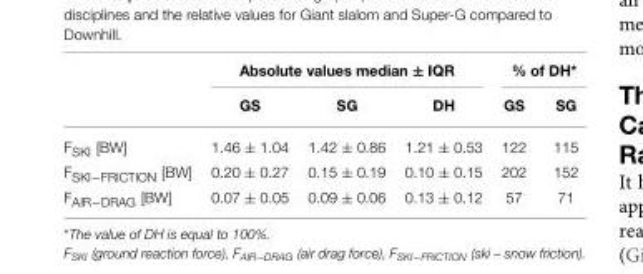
<table><thead><tr><td rowspan="2"></td><td colspan="3">Absolute values median ± IQR</td><td colspan="2">% of DH*</td></tr><tr><td>GS</td><td>SG</td><td>DH</td><td>GS</td><td>SG</td></tr></thead><tbody><tr><td>F<sub>SKI</sub> [BW]</td><td>1.46 ± 1.04</td><td>1.42 ± 0.86</td><td>1.21 ± 0.53</td><td>122</td><td>115</td></tr><tr><td>F<sub>SKI−FRICTION</sub> [BW]</td><td>0.20 ± 0.27</td><td>0.15 ± 0.19</td><td>0.10 ± 0.15</td><td>202</td><td>152</td></tr><tr><td>F<sub>AIR−DRAG</sub> [BW]</td><td>0.07 ± 0.05</td><td>0.09 ± 0.06</td><td>0.13 ± 0.12</td><td>57</td><td>71</td></tr></tbody></table>